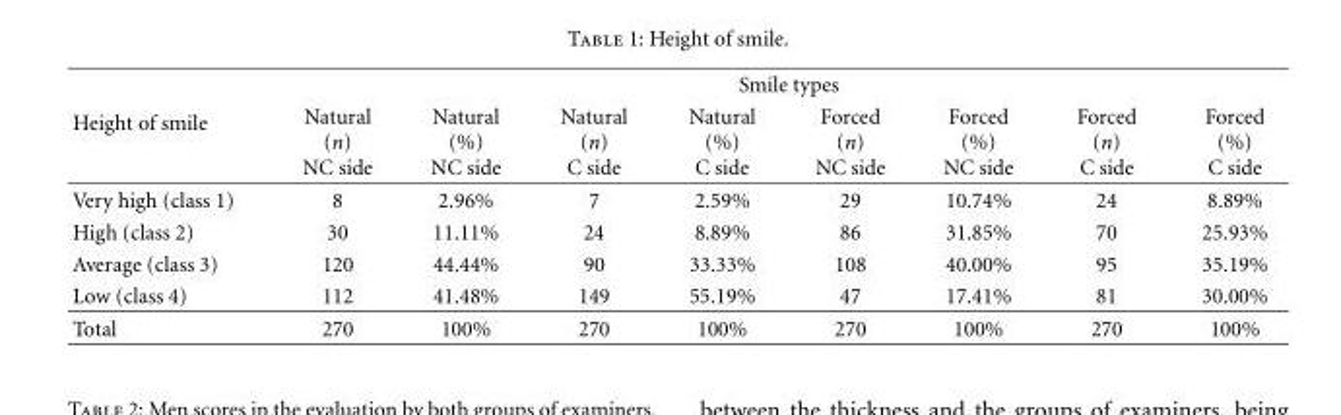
<table><thead><tr><td rowspan="2">Height of smile</td><td colspan="8">Smile types</td></tr><tr><td>Natural (n) NC side</td><td>Natural (%) NC side</td><td>Natural (n) C side</td><td>Natural (%) C side</td><td>Forced (n) NC side</td><td>Forced (%) NC side</td><td>Forced (n) C side</td><td>Forced (%) C side</td></tr></thead><tbody><tr><td>Very high (class 1)</td><td>8</td><td>2.96%</td><td>7</td><td>2.59%</td><td>29</td><td>10.74%</td><td>24</td><td>8.89%</td></tr><tr><td>High (class 2)</td><td>30</td><td>11.11%</td><td>24</td><td>8.89%</td><td>86</td><td>31.85%</td><td>70</td><td>25.93%</td></tr><tr><td>Average (class 3)</td><td>120</td><td>44.44%</td><td>90</td><td>33.33%</td><td>108</td><td>40.00%</td><td>95</td><td>35.19%</td></tr><tr><td>Low (class 4)</td><td>112</td><td>41.48%</td><td>149</td><td>55.19%</td><td>47</td><td>17.41%</td><td>81</td><td>30.00%</td></tr><tr><td>Total</td><td>270</td><td>100%</td><td>270</td><td>100%</td><td>270</td><td>100%</td><td>270</td><td>100%</td></tr></tbody></table>